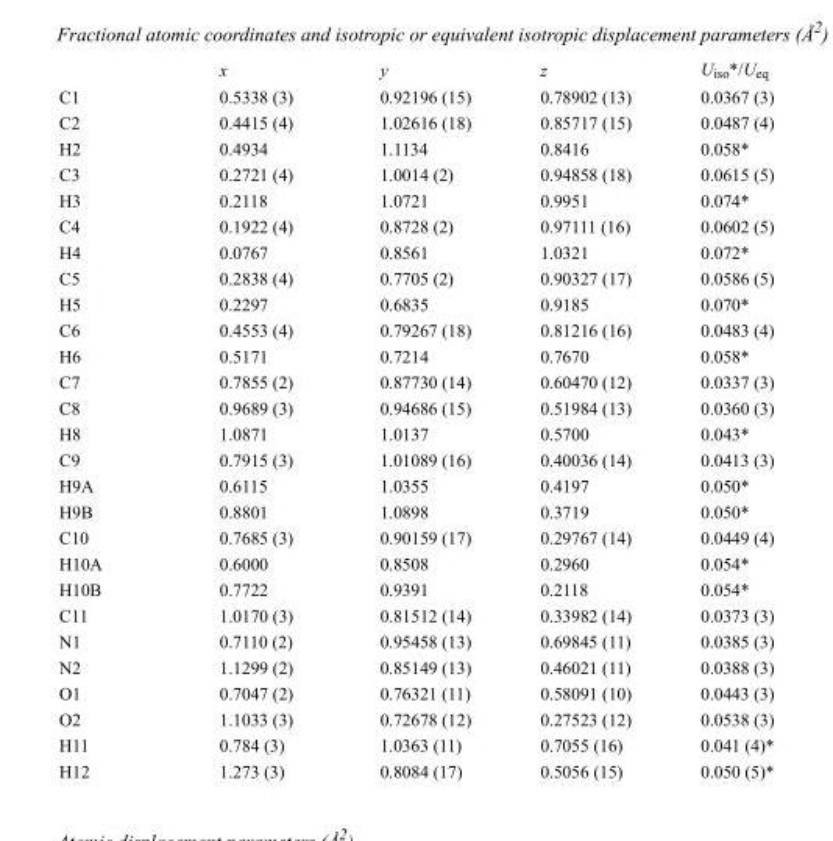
<table><thead><tr><td></td><td>x</td><td>y</td><td>z</td><td>U<sub>iso</sub>*/U<sub>eq</sub></td></tr></thead><tbody><tr><td>C1</td><td>0.5338 (3)</td><td>0.92196 (15)</td><td>0.78902 (13)</td><td>0.0367 (3)</td></tr><tr><td>C2</td><td>0.4415 (4)</td><td>1.02616 (18)</td><td>0.85717 (15)</td><td>0.0487 (4)</td></tr><tr><td>H2</td><td>0.4934</td><td>1.1134</td><td>0.8416</td><td>0.058*</td></tr><tr><td>C3</td><td>0.2721 (4)</td><td>1.0014 (2)</td><td>0.94858 (18)</td><td>0.0615 (5)</td></tr><tr><td>H3</td><td>0.2118</td><td>1.0721</td><td>0.9951</td><td>0.074*</td></tr><tr><td>C4</td><td>0.1922 (4)</td><td>0.8728 (2)</td><td>0.97111 (16)</td><td>0.0602 (5)</td></tr><tr><td>H4</td><td>0.0767</td><td>0.8561</td><td>1.0321</td><td>0.072*</td></tr><tr><td>C5</td><td>0.2838 (4)</td><td>0.7705 (2)</td><td>0.90327 (17)</td><td>0.0586 (5)</td></tr><tr><td>H5</td><td>0.2297</td><td>0.6835</td><td>0.9185</td><td>0.070*</td></tr><tr><td>C6</td><td>0.4553 (4)</td><td>0.79267 (18)</td><td>0.81216 (16)</td><td>0.0483 (4)</td></tr><tr><td>H6</td><td>0.5171</td><td>0.7214</td><td>0.7670</td><td>0.058*</td></tr><tr><td>C7</td><td>0.7855 (2)</td><td>0.87730 (14)</td><td>0.60470 (12)</td><td>0.0337 (3)</td></tr><tr><td>C8</td><td>0.9689 (3)</td><td>0.94686 (15)</td><td>0.51984 (13)</td><td>0.0360 (3)</td></tr><tr><td>H8</td><td>1.0871</td><td>1.0137</td><td>0.5700</td><td>0.043*</td></tr><tr><td>C9</td><td>0.7915 (3)</td><td>1.01089 (16)</td><td>0.40036 (14)</td><td>0.0413 (3)</td></tr><tr><td>H9A</td><td>0.6115</td><td>1.0355</td><td>0.4197</td><td>0.050*</td></tr><tr><td>H9B</td><td>0.8801</td><td>1.0898</td><td>0.3719</td><td>0.050*</td></tr><tr><td>C10</td><td>0.7685 (3)</td><td>0.90159 (17)</td><td>0.29767 (14)</td><td>0.0449 (4)</td></tr><tr><td>H10A</td><td>0.6000</td><td>0.8508</td><td>0.2960</td><td>0.054*</td></tr><tr><td>H10B</td><td>0.7722</td><td>0.9391</td><td>0.2118</td><td>0.054*</td></tr><tr><td>C11</td><td>1.0170 (3)</td><td>0.81512 (14)</td><td>0.33982 (14)</td><td>0.0373 (3)</td></tr><tr><td>N1</td><td>0.7110 (2)</td><td>0.95458 (13)</td><td>0.69845 (11)</td><td>0.0385 (3)</td></tr><tr><td>N2</td><td>1.1299 (2)</td><td>0.85149 (13)</td><td>0.46021 (11)</td><td>0.0388 (3)</td></tr><tr><td>O1</td><td>0.7047 (2)</td><td>0.76321 (11)</td><td>0.58091 (10)</td><td>0.0443 (3)</td></tr><tr><td>O2</td><td>1.1033 (3)</td><td>0.72678 (12)</td><td>0.27523 (12)</td><td>0.0538 (3)</td></tr><tr><td>H11</td><td>0.784 (3)</td><td>1.0363 (11)</td><td>0.7055 (16)</td><td>0.041 (4)*</td></tr><tr><td>H12</td><td>1.273 (3)</td><td>0.8084 (17)</td><td>0.5056 (15)</td><td>0.050 (5)*</td></tr></tbody></table>